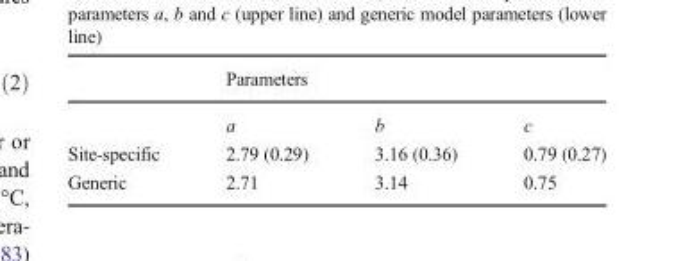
<table><thead><tr><td rowspan="2"></td><td colspan="3">Parameters</td></tr><tr><td>a</td><td>b</td><td>c</td></tr></thead><tbody><tr><td>Site-specific</td><td>2.79 (0.29)</td><td>3.16 (0.36)</td><td>0.79 (0.27)</td></tr><tr><td>Generic</td><td>2.71</td><td>3.14</td><td>0.75</td></tr></tbody></table>